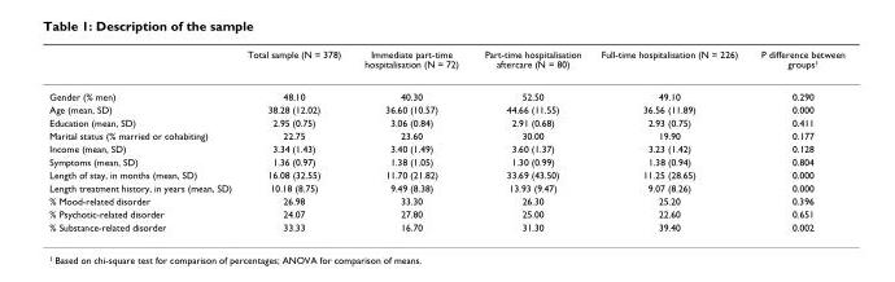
<table><thead><tr><td></td><td>Total sample (N = 378)</td><td>Immediate part-time hospitalisation (N = 72)</td><td>Part-time hospitalisation aftercare (N = 80)</td><td>Full-time hospitalisation (N = 226)</td><td>P difference between groups<sup>1</sup></td></tr></thead><tbody><tr><td>Gender (% men)</td><td>48.10</td><td>40.30</td><td>52.50</td><td>49.10</td><td>0.290</td></tr><tr><td>Age (mean, SD)</td><td>38.28 (12.02)</td><td>36.60 (10.57)</td><td>44.66 (11.55)</td><td>36.56 (11.89)</td><td>0.000</td></tr><tr><td>Education (mean, SD)</td><td>2.95 (0.75)</td><td>3.06 (0.84)</td><td>2.91 (0.68)</td><td>2.93 (0.75)</td><td>0.411</td></tr><tr><td>Marital status (% married or cohabiting)</td><td>22.75</td><td>23.60</td><td>30.00</td><td>19.90</td><td>0.177</td></tr><tr><td>Income (mean, SD)</td><td>3.34 (1.43)</td><td>3.40 (1.49)</td><td>3.60 (1.37)</td><td>3.23 (1.42)</td><td>0.128</td></tr><tr><td>Symptoms (mean, SD)</td><td>1.36 (0.97)</td><td>1.38 (1.05)</td><td>1.30 (0.99)</td><td>1.38 (0.94)</td><td>0.804</td></tr><tr><td>Length of stay, in months (mean, SD)</td><td>16.08 (32.55)</td><td>11.70 (21.82)</td><td>33.69 (43.50)</td><td>11.25 (28.65)</td><td>0.000</td></tr><tr><td>Length treatment history, in years (mean, SD)</td><td>10.18 (8.75)</td><td>9.49 (8.38)</td><td>13.93 (9.47)</td><td>9.07 (8.26)</td><td>0.000</td></tr><tr><td>% Mood-related disorder</td><td>26.98</td><td>33.30</td><td>26.30</td><td>25.20</td><td>0.396</td></tr><tr><td>% Psychotic-related disorder</td><td>24.07</td><td>27.80</td><td>25.00</td><td>22.60</td><td>0.651</td></tr><tr><td>% Substance-related disorder</td><td>33.33</td><td>16.70</td><td>31.30</td><td>39.40</td><td>0.002</td></tr></tbody></table>